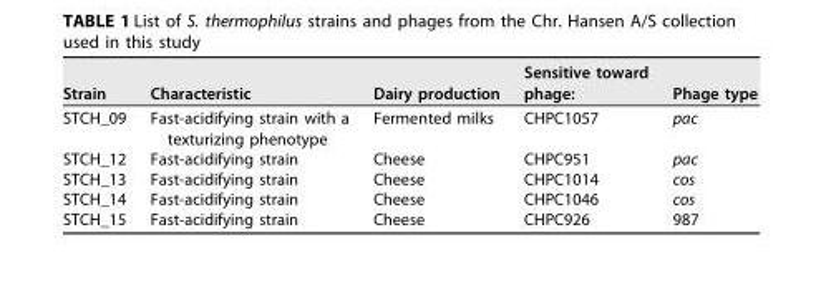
<table><thead><tr><td>Strain</td><td>Characteristic</td><td>Dairy production</td><td>Sensitive toward phage:</td><td>Phage type</td></tr></thead><tbody><tr><td>STCH_09</td><td>Fast-acidifying strain with a texturizing phenotype</td><td>Fermented milks</td><td>CHPC1057</td><td>pac</td></tr><tr><td>STCH_12</td><td>Fast-acidifying strain</td><td>Cheese</td><td>CHPC951</td><td>pac</td></tr><tr><td>STCH_13</td><td>Fast-acidifying strain</td><td>Cheese</td><td>CHPC1014</td><td>cos</td></tr><tr><td>STCH_14</td><td>Fast-acidifying strain</td><td>Cheese</td><td>CHPC1046</td><td>cos</td></tr><tr><td>STCH_15</td><td>Fast-acidifying strain</td><td>Cheese</td><td>CHPC926</td><td>987</td></tr></tbody></table>